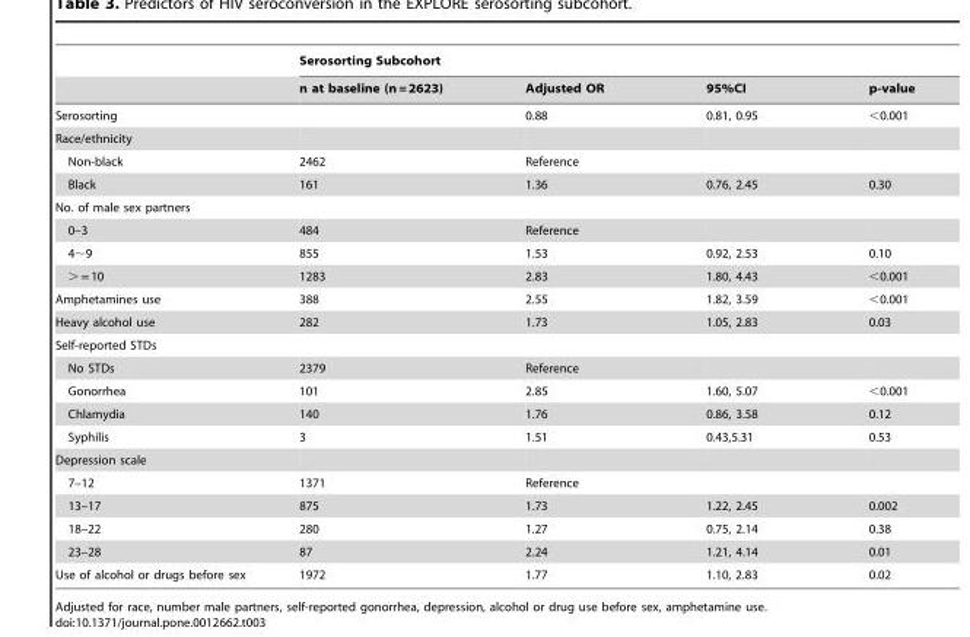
<table><thead><tr><td rowspan="2"></td><td colspan="4">Serosorting Subcohort</td></tr><tr><td>n at baseline (n = 2623)</td><td>Adjusted OR</td><td>95%CI</td><td>p-value</td></tr></thead><tbody><tr><td>Serosorting</td><td></td><td>0.88</td><td>0.81, 0.95</td><td>&lt;0.001</td></tr><tr><td colspan="5">Race/ethnicity</td></tr><tr><td>Non-black</td><td>2462</td><td>Reference</td><td></td><td></td></tr><tr><td>Black</td><td>161</td><td>1.36</td><td>0.76, 2.45</td><td>0.30</td></tr><tr><td colspan="5">No. of male sex partners</td></tr><tr><td>0–3</td><td>484</td><td>Reference</td><td></td><td></td></tr><tr><td>4∼9</td><td>855</td><td>1.53</td><td>0.92, 2.53</td><td>0.10</td></tr><tr><td>&gt; = 10</td><td>1283</td><td>2.83</td><td>1.80, 4.43</td><td>&lt;0.001</td></tr><tr><td>Amphetamines use</td><td>388</td><td>2.55</td><td>1.82, 3.59</td><td>&lt;0.001</td></tr><tr><td>Heavy alcohol use</td><td>282</td><td>1.73</td><td>1.05, 2.83</td><td>0.03</td></tr><tr><td colspan="5">Self-reported STDs</td></tr><tr><td>No STDs</td><td>2379</td><td>Reference</td><td></td><td></td></tr><tr><td>Gonorrhea</td><td>101</td><td>2.85</td><td>1.60, 5.07</td><td>&lt;0.001</td></tr><tr><td>Chlamydia</td><td>140</td><td>1.76</td><td>0.86, 3.58</td><td>0.12</td></tr><tr><td>Syphilis</td><td>3</td><td>1.51</td><td>0.43,5.31</td><td>0.53</td></tr><tr><td colspan="5">Depression scale</td></tr><tr><td>7–12</td><td>1371</td><td>Reference</td><td></td><td></td></tr><tr><td>13–17</td><td>875</td><td>1.73</td><td>1.22, 2.45</td><td>0.002</td></tr><tr><td>18–22</td><td>280</td><td>1.27</td><td>0.75, 2.14</td><td>0.38</td></tr><tr><td>23–28</td><td>87</td><td>2.24</td><td>1.21, 4.14</td><td>0.01</td></tr><tr><td>Use of alcohol or drugs before sex</td><td>1972</td><td>1.77</td><td>1.10, 2.83</td><td>0.02</td></tr></tbody></table>